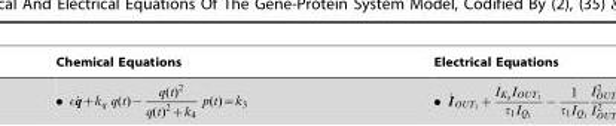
<table><thead><tr><td>Chemical Equations</td><td>Electrical Equations</td></tr></thead><tbody></tbody></table>